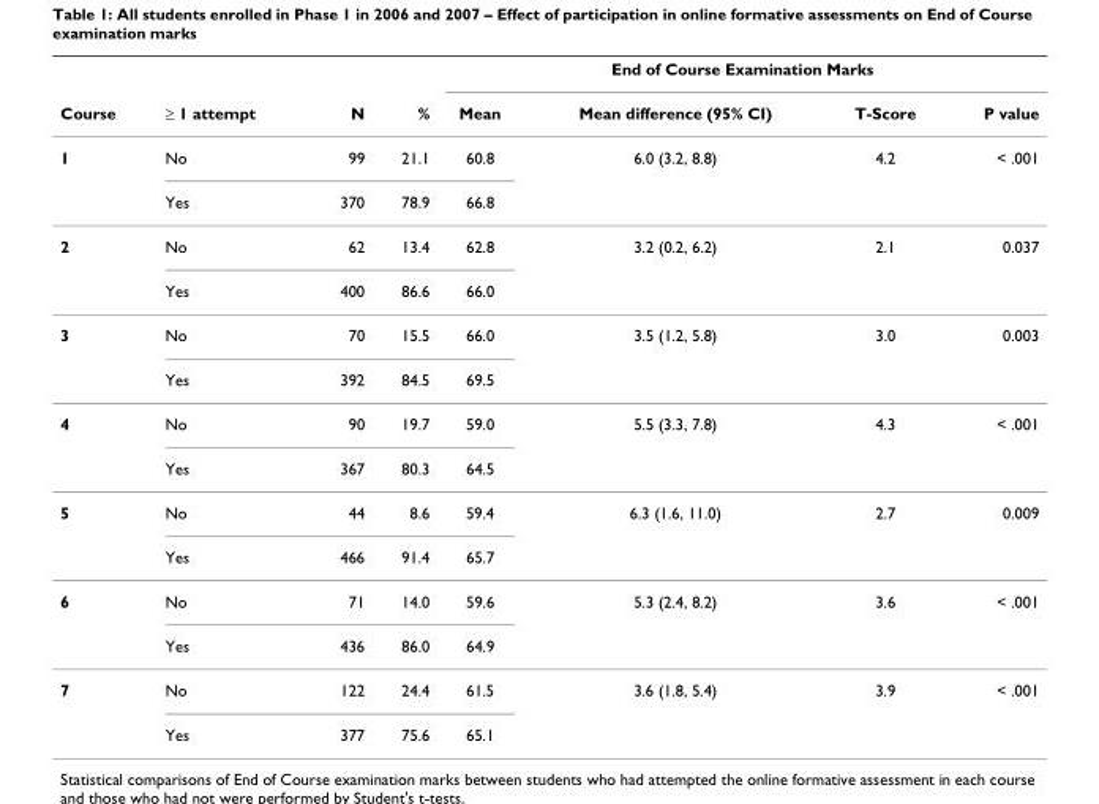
<table><thead><tr><td rowspan="2">Course</td><td rowspan="2">≥ 1 attempt</td><td rowspan="2">N</td><td rowspan="2">%</td><td colspan="4">End of Course Examination Marks</td></tr><tr><td>Mean</td><td>Mean difference (95% CI)</td><td>T-Score</td><td>P value</td></tr></thead><tbody><tr><td rowspan="2">1</td><td>No</td><td>99</td><td>21.1</td><td>60.8</td><td>6.0 (3.2, 8.8)</td><td>4.2</td><td>&lt; .001</td></tr><tr><td>Yes</td><td>370</td><td>78.9</td><td>66.8</td><td></td><td></td><td></td></tr><tr><td rowspan="2">2</td><td>No</td><td>62</td><td>13.4</td><td>62.8</td><td>3.2 (0.2, 6.2)</td><td>2.1</td><td>0.037</td></tr><tr><td>Yes</td><td>400</td><td>86.6</td><td>66.0</td><td></td><td></td><td></td></tr><tr><td rowspan="2">3</td><td>No</td><td>70</td><td>15.5</td><td>66.0</td><td>3.5 (1.2, 5.8)</td><td>3.0</td><td>0.003</td></tr><tr><td>Yes</td><td>392</td><td>84.5</td><td>69.5</td><td></td><td></td><td></td></tr><tr><td rowspan="2">4</td><td>No</td><td>90</td><td>19.7</td><td>59.0</td><td>5.5 (3.3, 7.8)</td><td>4.3</td><td>&lt; .001</td></tr><tr><td>Yes</td><td>367</td><td>80.3</td><td>64.5</td><td></td><td></td><td></td></tr><tr><td rowspan="2">5</td><td>No</td><td>44</td><td>8.6</td><td>59.4</td><td>6.3 (1.6, 11.0)</td><td>2.7</td><td>0.009</td></tr><tr><td>Yes</td><td>466</td><td>91.4</td><td>65.7</td><td></td><td></td><td></td></tr><tr><td rowspan="2">6</td><td>No</td><td>71</td><td>14.0</td><td>59.6</td><td>5.3 (2.4, 8.2)</td><td>3.6</td><td>&lt; .001</td></tr><tr><td>Yes</td><td>436</td><td>86.0</td><td>64.9</td><td></td><td></td><td></td></tr><tr><td rowspan="2">7</td><td>No</td><td>122</td><td>24.4</td><td>61.5</td><td>3.6 (1.8, 5.4)</td><td>3.9</td><td>&lt; .001</td></tr><tr><td>Yes</td><td>377</td><td>75.6</td><td>65.1</td><td></td><td></td><td></td></tr></tbody></table>